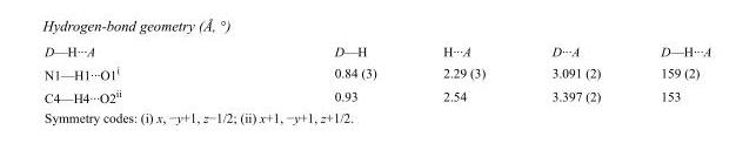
<table><tbody><tr><td>D—H···A</td><td>D—H</td><td>H···A</td><td>D···A</td><td>D—H···A</td></tr><tr><td>N1—H1···O1<sup>i</sup></td><td>0.84 (3)</td><td>2.29 (3)</td><td>3.091 (2)</td><td>159 (2)</td></tr><tr><td>C4—H4···O2<sup>ii</sup></td><td>0.93</td><td>2.54</td><td>3.397 (2)</td><td>153</td></tr></tbody></table>